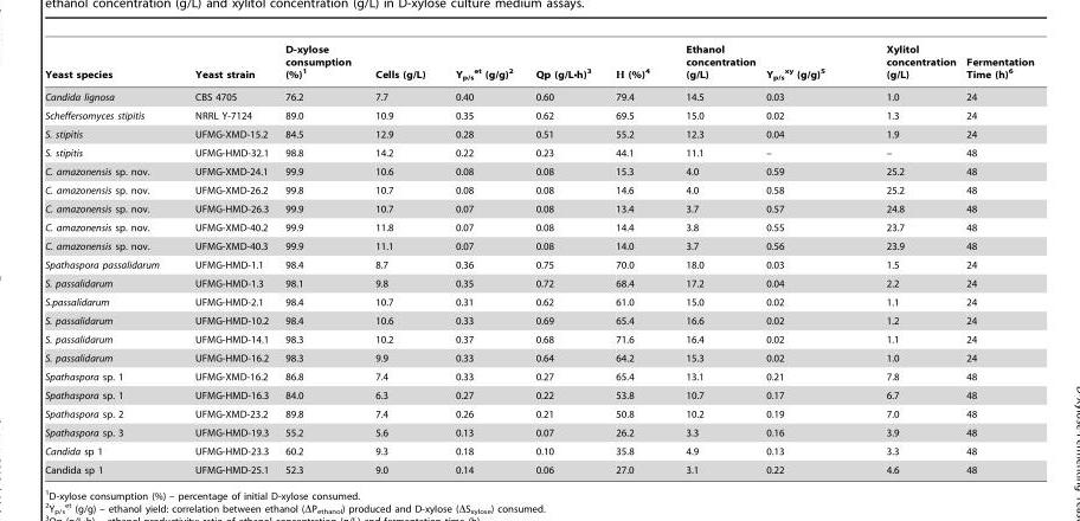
<table><thead><tr><td>Yeast species</td><td>Yeast strain</td><td>D-xylose consumption (%)<sup>1</sup></td><td>Cells (g/L)</td><td>Y<sub>p/s</sub> <sup>et</sup> (g/g)<sup>2</sup></td><td>Qp (g/L•h)<sup>3</sup></td><td>Η (%)<sup>4</sup></td><td>Ethanol concentration (g/L)</td><td>Y<sub>p/s</sub> <sup>xy</sup> (g/g)<sup>5</sup></td><td>Xylitol concentration (g/L)</td><td>Fermentation Time (h)<sup>6</sup></td></tr></thead><tbody><tr><td>Candida lignosa</td><td>CBS 4705</td><td>76.2</td><td>7.7</td><td>0.40</td><td>0.60</td><td>79.4</td><td>14.5</td><td>0.03</td><td>1.0</td><td>24</td></tr><tr><td>Scheffersomyces stipitis</td><td>NRRL Y-7124</td><td>89.0</td><td>10.9</td><td>0.35</td><td>0.62</td><td>69.5</td><td>15.0</td><td>0.02</td><td>1.3</td><td>24</td></tr><tr><td>S. stipitis</td><td>UFMG-XMD-15.2</td><td>84.5</td><td>12.9</td><td>0.28</td><td>0.51</td><td>55.2</td><td>12.3</td><td>0.04</td><td>1.9</td><td>24</td></tr><tr><td>S. stipitis</td><td>UFMG-HMD-32.1</td><td>98.8</td><td>14.2</td><td>0.22</td><td>0.23</td><td>44.1</td><td>11.1</td><td>–</td><td>–</td><td>48</td></tr><tr><td>C. amazonensis sp. nov.</td><td>UFMG-XMD-24.1</td><td>99.9</td><td>10.6</td><td>0.08</td><td>0.08</td><td>15.3</td><td>4.0</td><td>0.59</td><td>25.2</td><td>48</td></tr><tr><td>C. amazonensis sp. nov.</td><td>UFMG-XMD-26.2</td><td>99.8</td><td>10.7</td><td>0.08</td><td>0.08</td><td>14.6</td><td>4.0</td><td>0.58</td><td>25.2</td><td>48</td></tr><tr><td>C. amazonensis sp. nov.</td><td>UFMG-HMD-26.3</td><td>99.9</td><td>10.7</td><td>0.07</td><td>0.08</td><td>13.4</td><td>3.7</td><td>0.57</td><td>24.8</td><td>48</td></tr><tr><td>C. amazonensis sp. nov.</td><td>UFMG-XMD-40.2</td><td>99.9</td><td>11.8</td><td>0.07</td><td>0.08</td><td>14.4</td><td>3.8</td><td>0.55</td><td>23.7</td><td>48</td></tr><tr><td>C. amazonensis sp. nov.</td><td>UFMG-XMD-40.3</td><td>99.9</td><td>11.1</td><td>0.07</td><td>0.08</td><td>14.0</td><td>3.7</td><td>0.56</td><td>23.9</td><td>48</td></tr><tr><td>Spathaspora passalidarum</td><td>UFMG-HMD-1.1</td><td>98.4</td><td>8.7</td><td>0.36</td><td>0.75</td><td>70.0</td><td>18.0</td><td>0.03</td><td>1.5</td><td>24</td></tr><tr><td>S. passalidarum</td><td>UFMG-HMD-1.3</td><td>98.1</td><td>9.8</td><td>0.35</td><td>0.72</td><td>68.4</td><td>17.2</td><td>0.04</td><td>2.2</td><td>24</td></tr><tr><td>S.passalidarum</td><td>UFMG-HMD-2.1</td><td>98.4</td><td>10.7</td><td>0.31</td><td>0.62</td><td>61.0</td><td>15.0</td><td>0.02</td><td>1.1</td><td>24</td></tr><tr><td>S. passalidarum</td><td>UFMG-HMD-10.2</td><td>98.4</td><td>10.6</td><td>0.33</td><td>0.69</td><td>65.4</td><td>16.6</td><td>0.02</td><td>1.2</td><td>24</td></tr><tr><td>S. passalidarum</td><td>UFMG-HMD-14.1</td><td>98.3</td><td>10.2</td><td>0.37</td><td>0.68</td><td>71.6</td><td>16.4</td><td>0.02</td><td>1.1</td><td>24</td></tr><tr><td>S. passalidarum</td><td>UFMG-HMD-16.2</td><td>98.3</td><td>9.9</td><td>0.33</td><td>0.64</td><td>64.2</td><td>15.3</td><td>0.02</td><td>1.0</td><td>24</td></tr><tr><td>Spathaspora sp. 1</td><td>UFMG-XMD-16.2</td><td>86.8</td><td>7.4</td><td>0.33</td><td>0.27</td><td>65.4</td><td>13.1</td><td>0.21</td><td>7.8</td><td>48</td></tr><tr><td>Spathaspora sp. 1</td><td>UFMG-HMD-16.3</td><td>84.0</td><td>6.3</td><td>0.27</td><td>0.22</td><td>53.8</td><td>10.7</td><td>0.17</td><td>6.7</td><td>48</td></tr><tr><td>Spathaspora sp. 2</td><td>UFMG-XMD-23.2</td><td>89.8</td><td>7.4</td><td>0.26</td><td>0.21</td><td>50.8</td><td>10.2</td><td>0.19</td><td>7.0</td><td>48</td></tr><tr><td>Spathaspora sp. 3</td><td>UFMG-HMD-19.3</td><td>55.2</td><td>5.6</td><td>0.13</td><td>0.07</td><td>26.2</td><td>3.3</td><td>0.16</td><td>3.9</td><td>48</td></tr><tr><td>Candida sp 1</td><td>UFMG-HMD-23.3</td><td>60.2</td><td>9.3</td><td>0.18</td><td>0.10</td><td>35.8</td><td>4.9</td><td>0.13</td><td>3.3</td><td>48</td></tr><tr><td>Candida sp 1</td><td>UFMG-HMD-25.1</td><td>52.3</td><td>9.0</td><td>0.14</td><td>0.06</td><td>27.0</td><td>3.1</td><td>0.22</td><td>4.6</td><td>48</td></tr></tbody></table>